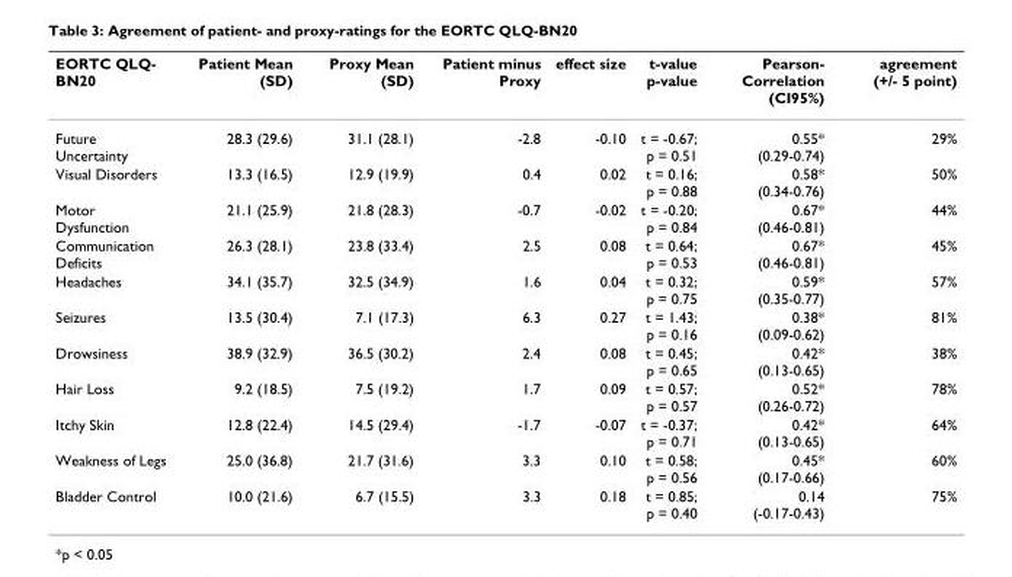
<table><thead><tr><td>EORTC QLQ- BN20</td><td>Patient Mean (SD)</td><td>Proxy Mean (SD)</td><td>Patient minus Proxy</td><td>effect size</td><td>t-value p-value</td><td>Pearson- Correlation (CI95%)</td><td>agreement (+/- 5 point)</td></tr></thead><tbody><tr><td>Future Uncertainty</td><td>28.3 (29.6)</td><td>31.1 (28.1)</td><td>-2.8</td><td>-0.10</td><td>t = -0.67; p = 0.51</td><td>0.55* (0.29-0.74)</td><td>29%</td></tr><tr><td>Visual Disorders</td><td>13.3 (16.5)</td><td>12.9 (19.9)</td><td>0.4</td><td>0.02</td><td>t = 0.16; p = 0.88</td><td>0.58* (0.34-0.76)</td><td>50%</td></tr><tr><td>Motor Dysfunction</td><td>21.1 (25.9)</td><td>21.8 (28.3)</td><td>-0.7</td><td>-0.02</td><td>t = -0.20; p = 0.84</td><td>0.67* (0.46-0.81)</td><td>44%</td></tr><tr><td>Communication Deficits</td><td>26.3 (28.1)</td><td>23.8 (33.4)</td><td>2.5</td><td>0.08</td><td>t = 0.64; p = 0.53</td><td>0.67* (0.46-0.81)</td><td>45%</td></tr><tr><td>Headaches</td><td>34.1 (35.7)</td><td>32.5 (34.9)</td><td>1.6</td><td>0.04</td><td>t = 0.32; p = 0.75</td><td>0.59* (0.35-0.77)</td><td>57%</td></tr><tr><td>Seizures</td><td>13.5 (30.4)</td><td>7.1 (17.3)</td><td>6.3</td><td>0.27</td><td>t = 1.43; p = 0.16</td><td>0.38* (0.09-0.62)</td><td>81%</td></tr><tr><td>Drowsiness</td><td>38.9 (32.9)</td><td>36.5 (30.2)</td><td>2.4</td><td>0.08</td><td>t = 0.45; p = 0.65</td><td>0.42* (0.13-0.65)</td><td>38%</td></tr><tr><td>Hair Loss</td><td>9.2 (18.5)</td><td>7.5 (19.2)</td><td>1.7</td><td>0.09</td><td>t = 0.57; p = 0.57</td><td>0.52* (0.26-0.72)</td><td>78%</td></tr><tr><td>Itchy Skin</td><td>12.8 (22.4)</td><td>14.5 (29.4)</td><td>-1.7</td><td>-0.07</td><td>t = -0.37; p = 0.71</td><td>0.42* (0.13-0.65)</td><td>64%</td></tr><tr><td>Weakness of Legs</td><td>25.0 (36.8)</td><td>21.7 (31.6)</td><td>3.3</td><td>0.10</td><td>t = 0.58; p = 0.56</td><td>0.45* (0.17-0.66)</td><td>60%</td></tr><tr><td>Bladder Control</td><td>10.0 (21.6)</td><td>6.7 (15.5)</td><td>3.3</td><td>0.18</td><td>t = 0.85; p = 0.40</td><td>0.14 (-0.17-0.43)</td><td>75%</td></tr></tbody></table>